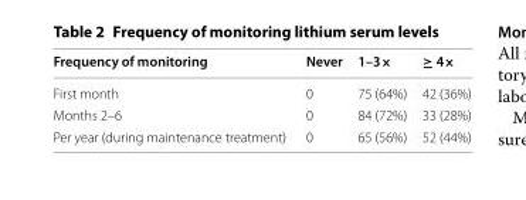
<table><thead><tr><td>Frequency of monitoring</td><td>Never</td><td>1–3×</td><td>≥ 4×</td></tr></thead><tbody><tr><td>First month</td><td>0</td><td>75 (64%)</td><td>42 (36%)</td></tr><tr><td>Months 2–6</td><td>0</td><td>84 (72%)</td><td>33 (28%)</td></tr><tr><td>Per year (during maintenance treatment)</td><td>0</td><td>65 (56%)</td><td>52 (44%)</td></tr></tbody></table>